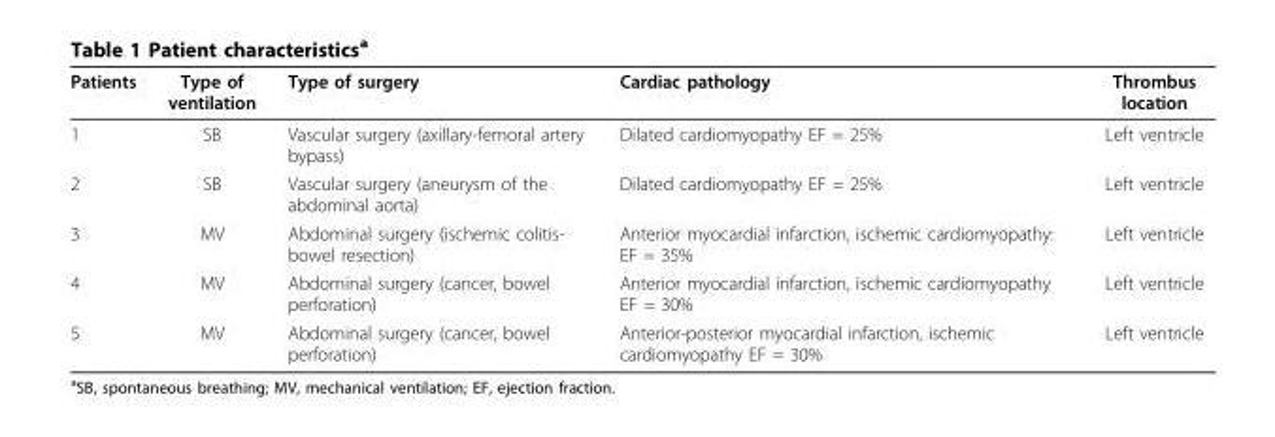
<table><thead><tr><td>Patients</td><td>Type of ventilation</td><td>Type of surgery</td><td>Cardiac pathology</td><td>Thrombus location</td></tr></thead><tbody><tr><td>1</td><td>SB</td><td>Vascular surgery (axillary-femoral artery bypass)</td><td>Dilated cardiomyopathy EF = 25%</td><td>Left ventricle</td></tr><tr><td>2</td><td>SB</td><td>Vascular surgery (aneurysm of the abdominal aorta)</td><td>Dilated cardiomyopathy EF = 25%</td><td>Left ventricle</td></tr><tr><td>3</td><td>MV</td><td>Abdominal surgery (ischemic colitis- bowel resection)</td><td>Anterior myocardial infarction, ischemic cardiomyopathy: EF = 35%</td><td>Left ventricle</td></tr><tr><td>4</td><td>MV</td><td>Abdominal surgery (cancer, bowel perforation)</td><td>Anterior myocardial infarction, ischemic cardiomyopathy EF = 30%</td><td>Left ventricle</td></tr><tr><td>5</td><td>MV</td><td>Abdominal surgery (cancer, bowel perforation)</td><td>Anterior-posterior myocardial infarction, ischemic cardiomyopathy EF = 30%</td><td>Left ventricle</td></tr></tbody></table>